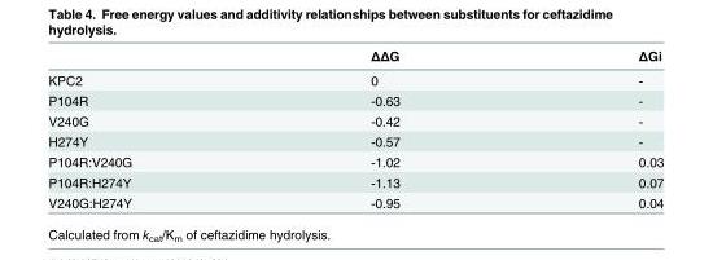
<table><thead><tr><td></td><td>ΔΔG</td><td>ΔGi</td></tr></thead><tbody><tr><td>KPC2</td><td>0</td><td>-</td></tr><tr><td>P104R</td><td>-0.63</td><td>-</td></tr><tr><td>V240G</td><td>-0.42</td><td>-</td></tr><tr><td>H274Y</td><td>-0.57</td><td>-</td></tr><tr><td>P104R:V240G</td><td>-1.02</td><td>0.03</td></tr><tr><td>P104R:H274Y</td><td>-1.13</td><td>0.07</td></tr><tr><td>V240G:H274Y</td><td>-0.95</td><td>0.04</td></tr></tbody></table>